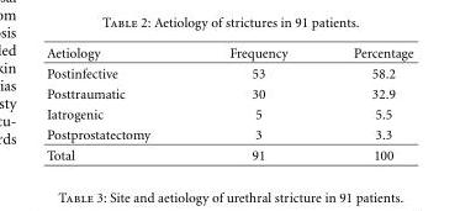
<table><thead><tr><td>Aetiology</td><td>Frequency</td><td>Percentage</td></tr></thead><tbody><tr><td>Postinfective</td><td>53</td><td>58.2</td></tr><tr><td>Posttraumatic</td><td>30</td><td>32.9</td></tr><tr><td>Iatrogenic</td><td>5</td><td>5.5</td></tr><tr><td>Postprostatectomy</td><td>3</td><td>3.3</td></tr><tr><td>Total</td><td>91</td><td>100</td></tr></tbody></table>